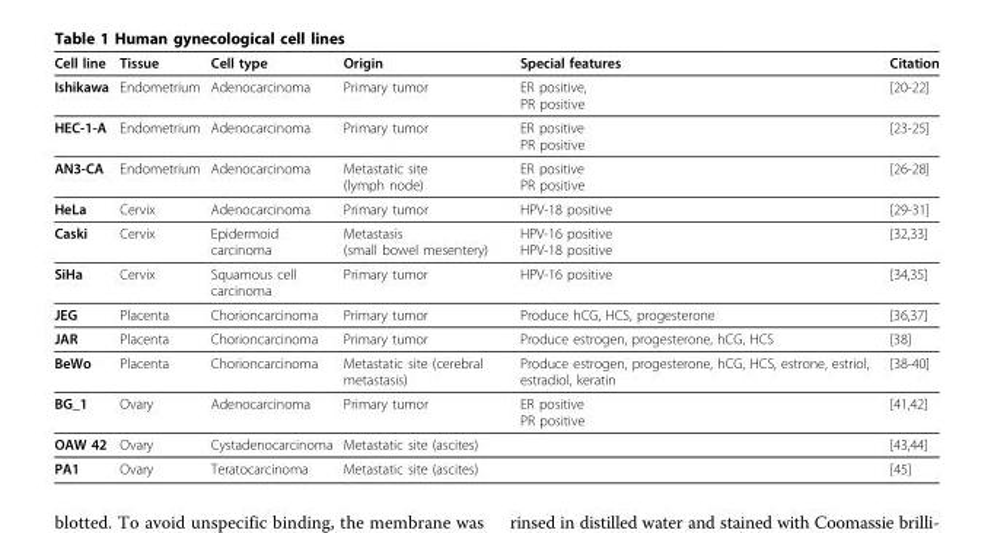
<table><thead><tr><td>Cell line</td><td>Tissue</td><td>Cell type</td><td>Origin</td><td>Special features</td><td>Citation</td></tr></thead><tbody><tr><td>Ishikawa</td><td>Endometrium</td><td>Adenocarcinoma</td><td>Primary tumor</td><td>ER positive, PR positive</td><td>[20-22]</td></tr><tr><td>HEC-1-A</td><td>Endometrium</td><td>Adenocarcinoma</td><td>Primary tumor</td><td>ER positive PR positive</td><td>[23-25]</td></tr><tr><td>AN3-CA</td><td>Endometrium</td><td>Adenocarcinoma</td><td>Metastatic site (lymph node)</td><td>ER positive PR positive</td><td>[26-28]</td></tr><tr><td>HeLa</td><td>Cervix</td><td>Adenocarcinoma</td><td>Primary tumor</td><td>HPV-18 positive</td><td>[29-31]</td></tr><tr><td>Caski</td><td>Cervix</td><td>Epidermoid carcinoma</td><td>Metastasis (small bowel mesentery)</td><td>HPV-16 positive HPV-18 positive</td><td>[32,33]</td></tr><tr><td>SiHa</td><td>Cervix</td><td>Squamous cell carcinoma</td><td>Primary tumor</td><td>HPV-16 positive</td><td>[34,35]</td></tr><tr><td>JEG</td><td>Placenta</td><td>Chorioncarcinoma</td><td>Primary tumor</td><td>Produce hCG, HCS, progesterone</td><td>[36,37]</td></tr><tr><td>JAR</td><td>Placenta</td><td>Chorioncarcinoma</td><td>Primary tumor</td><td>Produce estrogen, progesterone, hCG, HCS</td><td>[38]</td></tr><tr><td>BeWo</td><td>Placenta</td><td>Chorioncarcinoma</td><td>Metastatic site (cerebral metastasis)</td><td>Produce estrogen, progesterone, hCG, HCS, estrone, estriol, estradiol, keratin</td><td>[38-40]</td></tr><tr><td>BG_1</td><td>Ovary</td><td>Adenocarcinoma</td><td>Primary tumor</td><td>ER positive PR positive</td><td>[41,42]</td></tr><tr><td>OAW 42</td><td>Ovary</td><td>Cystadenocarcinoma</td><td>Metastatic site (ascites)</td><td></td><td>[43,44]</td></tr><tr><td>PA1</td><td>Ovary</td><td>Teratocarcinoma</td><td>Metastatic site (ascites)</td><td></td><td>[45]</td></tr></tbody></table>